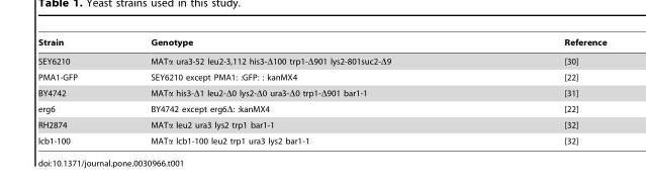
<table><thead><tr><td>Strain</td><td>Genotype</td><td>Reference</td></tr></thead><tbody><tr><td>SEY6210</td><td>MATα ura3-52 leu2-3,112 his3-Δ100 trp1-Δ901 lys2-801suc2-Δ9</td><td>[30]</td></tr><tr><td>PMA1-GFP</td><td>SEY6210 except PMA1: :GFP: : kanMX4</td><td>[22]</td></tr><tr><td>BY4742</td><td>MATα his3-Δ1 leu2-Δ0 lys2-Δ0 ura3-Δ0 trp1-Δ901 bar1-1</td><td>[31]</td></tr><tr><td>erg6</td><td>BY4742 except erg6Δ: :kanMX4</td><td>[22]</td></tr><tr><td>RH2874</td><td>MATα leu2 ura3 lys2 trp1 bar1-1</td><td>[32]</td></tr><tr><td>lcb1-100</td><td>MATα lcb1-100 leu2 trp1 ura3 lys2 bar1-1</td><td>[32]</td></tr></tbody></table>